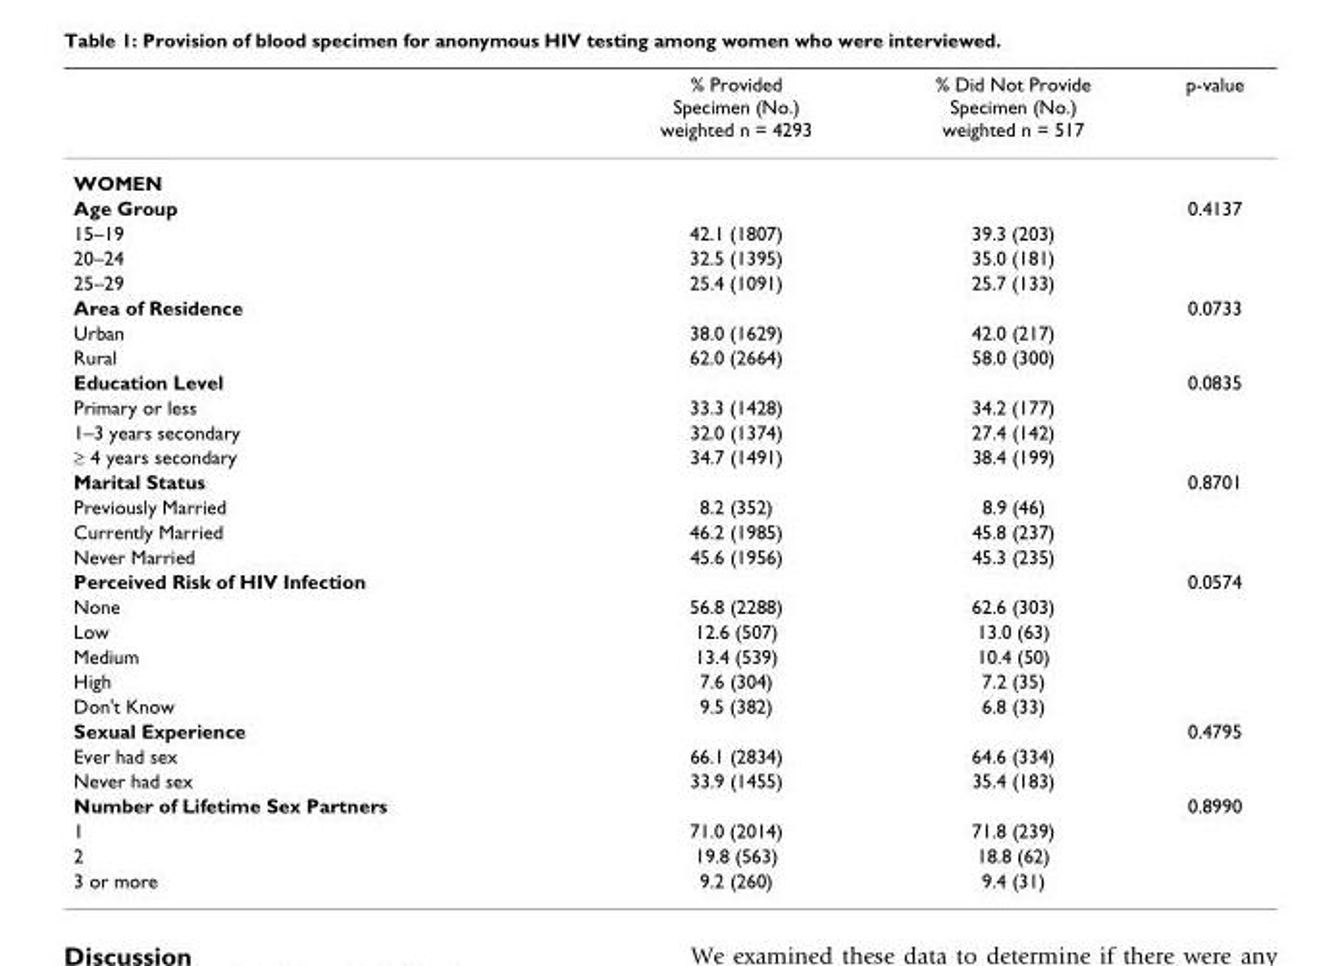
<table><thead><tr><td></td><td>% Provided Specimen (No.) weighted n = 4293</td><td>% Did Not Provide Specimen (No.) weighted n = 517</td><td>p-value</td></tr></thead><tbody><tr><td colspan="4">WOMEN</td></tr><tr><td>Age Group</td><td></td><td></td><td>0.4137</td></tr><tr><td>15–19</td><td>42.1 (1807)</td><td>39.3 (203)</td><td></td></tr><tr><td>20–24</td><td>32.5 (1395)</td><td>35.0 (181)</td><td></td></tr><tr><td>25–29</td><td>25.4 (1091)</td><td>25.7 (133)</td><td></td></tr><tr><td>Area of Residence</td><td></td><td></td><td>0.0733</td></tr><tr><td>Urban</td><td>38.0 (1629)</td><td>42.0 (217)</td><td></td></tr><tr><td>Rural</td><td>62.0 (2664)</td><td>58.0 (300)</td><td></td></tr><tr><td>Education Level</td><td></td><td></td><td>0.0835</td></tr><tr><td>Primary or less</td><td>33.3 (1428)</td><td>34.2 (177)</td><td></td></tr><tr><td>1–3 years secondary</td><td>32.0 (1374)</td><td>27.4 (142)</td><td></td></tr><tr><td>≥ 4 years secondary</td><td>34.7 (1491)</td><td>38.4 (199)</td><td></td></tr><tr><td>Marital Status</td><td></td><td></td><td>0.8701</td></tr><tr><td>Previously Married</td><td>8.2 (352)</td><td>8.9 (46)</td><td></td></tr><tr><td>Currently Married</td><td>46.2 (1985)</td><td>45.8 (237)</td><td></td></tr><tr><td>Never Married</td><td>45.6 (1956)</td><td>45.3 (235)</td><td></td></tr><tr><td>Perceived Risk of HIV Infection</td><td></td><td></td><td>0.0574</td></tr><tr><td>None</td><td>56.8 (2288)</td><td>62.6 (303)</td><td></td></tr><tr><td>Low</td><td>12.6 (507)</td><td>13.0 (63)</td><td></td></tr><tr><td>Medium</td><td>13.4 (539)</td><td>10.4 (50)</td><td></td></tr><tr><td>High</td><td>7.6 (304)</td><td>7.2 (35)</td><td></td></tr><tr><td>Don&#x27;t Know</td><td>9.5 (382)</td><td>6.8 (33)</td><td></td></tr><tr><td>Sexual Experience</td><td></td><td></td><td>0.4795</td></tr><tr><td>Ever had sex</td><td>66.1 (2834)</td><td>64.6 (334)</td><td></td></tr><tr><td>Never had sex</td><td>33.9 (1455)</td><td>35.4 (183)</td><td></td></tr><tr><td>Number of Lifetime Sex Partners</td><td></td><td></td><td>0.8990</td></tr><tr><td>1</td><td>71.0 (2014)</td><td>71.8 (239)</td><td></td></tr><tr><td>2</td><td>19.8 (563)</td><td>18.8 (62)</td><td></td></tr><tr><td>3 or more</td><td>9.2 (260)</td><td>9.4 (31)</td><td></td></tr></tbody></table>